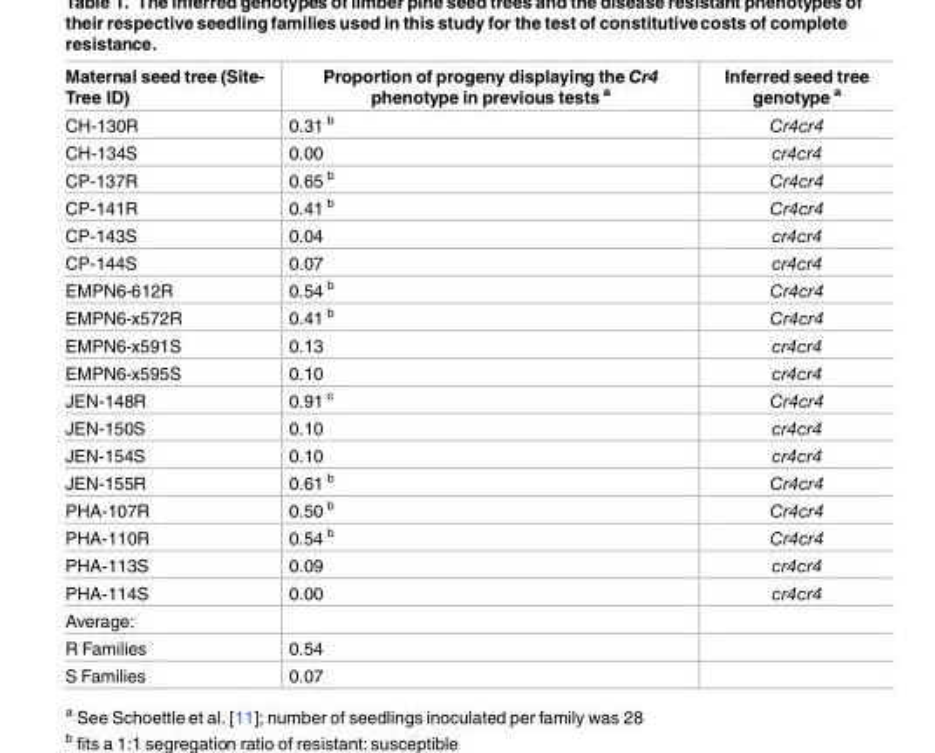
<table><thead><tr><td>Maternal seed tree (Site- Tree ID)</td><td>Proportion of progeny displaying the Cr4 phenotype in previous tests <sup>a</sup></td><td>Inferred seed tree genotype <sup>a</sup></td></tr></thead><tbody><tr><td>CH-130R</td><td>0.31 <sup>b</sup></td><td>Cr4cr4</td></tr><tr><td>CH-134S</td><td>0.00</td><td>cr4cr4</td></tr><tr><td>CP-137R</td><td>0.65 <sup>b</sup></td><td>Cr4cr4</td></tr><tr><td>CP-141R</td><td>0.41 <sup>b</sup></td><td>Cr4cr4</td></tr><tr><td>CP-143S</td><td>0.04</td><td>cr4cr4</td></tr><tr><td>CP-144S</td><td>0.07</td><td>cr4cr4</td></tr><tr><td>EMPN6-612R</td><td>0.54 <sup>b</sup></td><td>Cr4cr4</td></tr><tr><td>EMPN6-x572R</td><td>0.41 <sup>b</sup></td><td>Cr4cr4</td></tr><tr><td>EMPN6-x591S</td><td>0.13</td><td>cr4cr4</td></tr><tr><td>EMPN6-x595S</td><td>0.10</td><td>cr4cr4</td></tr><tr><td>JEN-148R</td><td>0.91 <sup>c</sup></td><td>Cr4cr4</td></tr><tr><td>JEN-150S</td><td>0.10</td><td>cr4cr4</td></tr><tr><td>JEN-154S</td><td>0.10</td><td>cr4cr4</td></tr><tr><td>JEN-155R</td><td>0.61 <sup>b</sup></td><td>Cr4cr4</td></tr><tr><td>PHA-107R</td><td>0.50 <sup>b</sup></td><td>Cr4cr4</td></tr><tr><td>PHA-110R</td><td>0.54 <sup>b</sup></td><td>Cr4cr4</td></tr><tr><td>PHA-113S</td><td>0.09</td><td>cr4cr4</td></tr><tr><td>PHA-114S</td><td>0.00</td><td>cr4cr4</td></tr><tr><td colspan="3">Average:</td></tr><tr><td>R Families</td><td>0.54</td><td></td></tr><tr><td>S Families</td><td>0.07</td><td></td></tr></tbody></table>